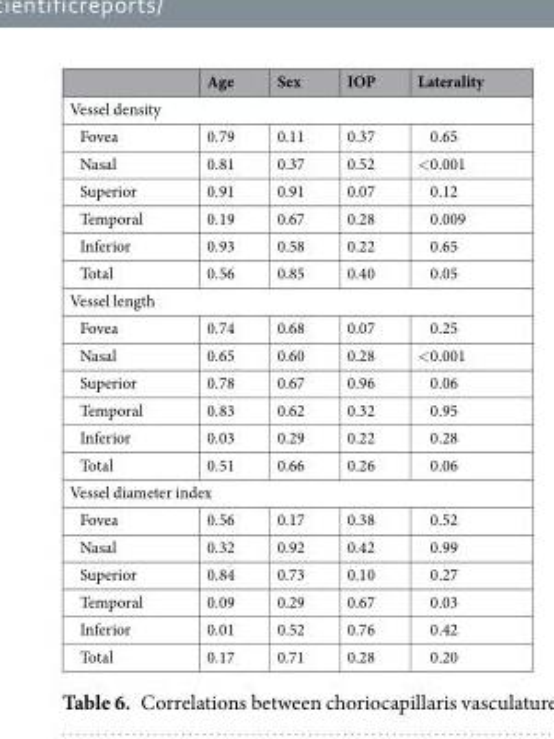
<table><thead><tr><td></td><td>Age</td><td>Sex</td><td>IOP</td><td>Laterality</td></tr></thead><tbody><tr><td colspan="5">Vessel density</td></tr><tr><td>Fovea</td><td>0.79</td><td>0.11</td><td>0.37</td><td>0.65</td></tr><tr><td>Nasal</td><td>0.81</td><td>0.37</td><td>0.52</td><td>&lt;0.001</td></tr><tr><td>Superior</td><td>0.91</td><td>0.91</td><td>0.07</td><td>0.12</td></tr><tr><td>Temporal</td><td>0.19</td><td>0.67</td><td>0.28</td><td>0.009</td></tr><tr><td>Inferior</td><td>0.93</td><td>0.58</td><td>0.22</td><td>0.65</td></tr><tr><td>Total</td><td>0.56</td><td>0.85</td><td>0.40</td><td>0.05</td></tr><tr><td colspan="5">Vessel length</td></tr><tr><td>Fovea</td><td>0.74</td><td>0.68</td><td>0.07</td><td>0.25</td></tr><tr><td>Nasal</td><td>0.65</td><td>0.60</td><td>0.28</td><td>&lt;0.001</td></tr><tr><td>Superior</td><td>0.78</td><td>0.67</td><td>0.96</td><td>0.06</td></tr><tr><td>Temporal</td><td>0.83</td><td>0.62</td><td>0.32</td><td>0.95</td></tr><tr><td>Inferior</td><td>0.03</td><td>0.29</td><td>0.22</td><td>0.28</td></tr><tr><td>Total</td><td>0.51</td><td>0.66</td><td>0.26</td><td>0.06</td></tr><tr><td colspan="5">Vessel diameter index</td></tr><tr><td>Fovea</td><td>0.56</td><td>0.17</td><td>0.38</td><td>0.52</td></tr><tr><td>Nasal</td><td>0.32</td><td>0.92</td><td>0.42</td><td>0.99</td></tr><tr><td>Superior</td><td>0.84</td><td>0.73</td><td>0.10</td><td>0.27</td></tr><tr><td>Temporal</td><td>0.09</td><td>0.29</td><td>0.67</td><td>0.03</td></tr><tr><td>Inferior</td><td>0.01</td><td>0.52</td><td>0.76</td><td>0.42</td></tr><tr><td>Total</td><td>0.17</td><td>0.71</td><td>0.28</td><td>0.20</td></tr></tbody></table>